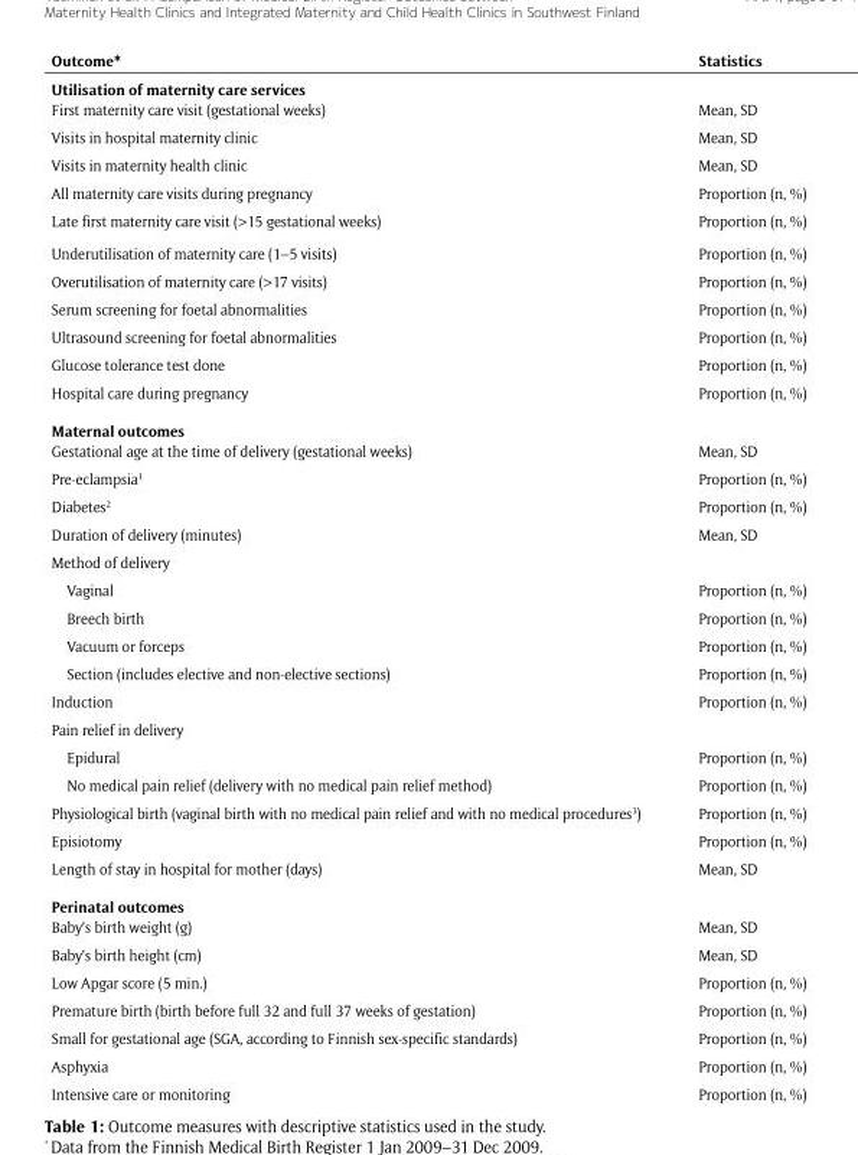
<table><thead><tr><td>Outcome*</td><td>Statistics</td></tr></thead><tbody><tr><td colspan="2">Utilisation of maternity care services</td></tr><tr><td>First maternity care visit (gestational weeks)</td><td>Mean, SD</td></tr><tr><td>Visits in hospital maternity clinic</td><td>Mean, SD</td></tr><tr><td>Visits in maternity health clinic</td><td>Mean, SD</td></tr><tr><td>All maternity care visits during pregnancy</td><td>Proportion (n, %)</td></tr><tr><td>Late first maternity care visit (&gt;15 gestational weeks)</td><td>Proportion (n, %)</td></tr><tr><td>Underutilisation of maternity care (1–5 visits)</td><td>Proportion (n, %)</td></tr><tr><td>Overutilisation of maternity care (&gt;17 visits)</td><td>Proportion (n, %)</td></tr><tr><td>Serum screening for foetal abnormalities</td><td>Proportion (n, %)</td></tr><tr><td>Ultrasound screening for foetal abnormalities</td><td>Proportion (n, %)</td></tr><tr><td>Glucose tolerance test done</td><td>Proportion (n, %)</td></tr><tr><td>Hospital care during pregnancy</td><td>Proportion (n, %)</td></tr><tr><td colspan="2">Maternal outcomes</td></tr><tr><td>Gestational age at the time of delivery (gestational weeks)</td><td>Mean, SD</td></tr><tr><td>Pre-eclampsia<sup>1</sup></td><td>Proportion (n, %)</td></tr><tr><td>Diabetes<sup>2</sup></td><td>Proportion (n, %)</td></tr><tr><td>Duration of delivery (minutes)</td><td>Mean, SD</td></tr><tr><td colspan="2">Method of delivery</td></tr><tr><td>Vaginal</td><td>Proportion (n, %)</td></tr><tr><td>Breech birth</td><td>Proportion (n, %)</td></tr><tr><td>Vacuum or forceps</td><td>Proportion (n, %)</td></tr><tr><td>Section (includes elective and non-elective sections)</td><td>Proportion (n, %)</td></tr><tr><td>Induction</td><td>Proportion (n, %)</td></tr><tr><td colspan="2">Pain relief in delivery</td></tr><tr><td>Epidural</td><td>Proportion (n, %)</td></tr><tr><td>No medical pain relief (delivery with no medical pain relief method)</td><td>Proportion (n, %)</td></tr><tr><td>Physiological birth (vaginal birth with no medical pain relief and with no medical procedures<sup>3</sup>)</td><td>Proportion (n, %)</td></tr><tr><td>Episiotomy</td><td>Proportion (n, %)</td></tr><tr><td>Length of stay in hospital for mother (days)</td><td>Mean, SD</td></tr><tr><td colspan="2">Perinatal outcomes</td></tr><tr><td>Baby’s birth weight (g)</td><td>Mean, SD</td></tr><tr><td>Baby’s birth height (cm)</td><td>Mean, SD</td></tr><tr><td>Low Apgar score (5 min.)</td><td>Proportion (n, %)</td></tr><tr><td>Premature birth (birth before full 32 and full 37 weeks of gestation)</td><td>Proportion (n, %)</td></tr><tr><td>Small for gestational age (SGA, according to Finnish sex-specific standards)</td><td>Proportion (n, %)</td></tr><tr><td>Asphyxia</td><td>Proportion (n, %)</td></tr><tr><td>Intensive care or monitoring</td><td>Proportion (n, %)</td></tr></tbody></table>